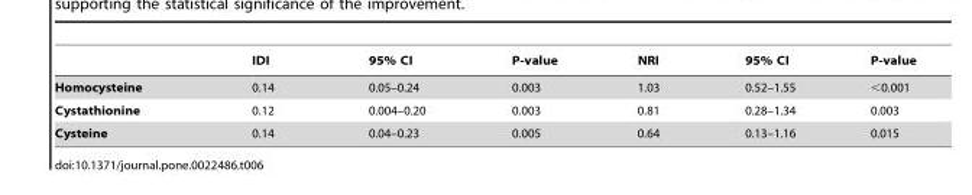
<table><thead><tr><td></td><td>IDI</td><td>95% CI</td><td>P-value</td><td>NRI</td><td>95% CI</td><td>P-value</td></tr></thead><tbody><tr><td>Homocysteine</td><td>0.14</td><td>0.05–0.24</td><td>0.003</td><td>1.03</td><td>0.52–1.55</td><td>&lt;0.001</td></tr><tr><td>Cystathionine</td><td>0.12</td><td>0.004–0.20</td><td>0.003</td><td>0.81</td><td>0.28–1.34</td><td>0.003</td></tr><tr><td>Cysteine</td><td>0.14</td><td>0.04–0.23</td><td>0.005</td><td>0.64</td><td>0.13–1.16</td><td>0.015</td></tr></tbody></table>